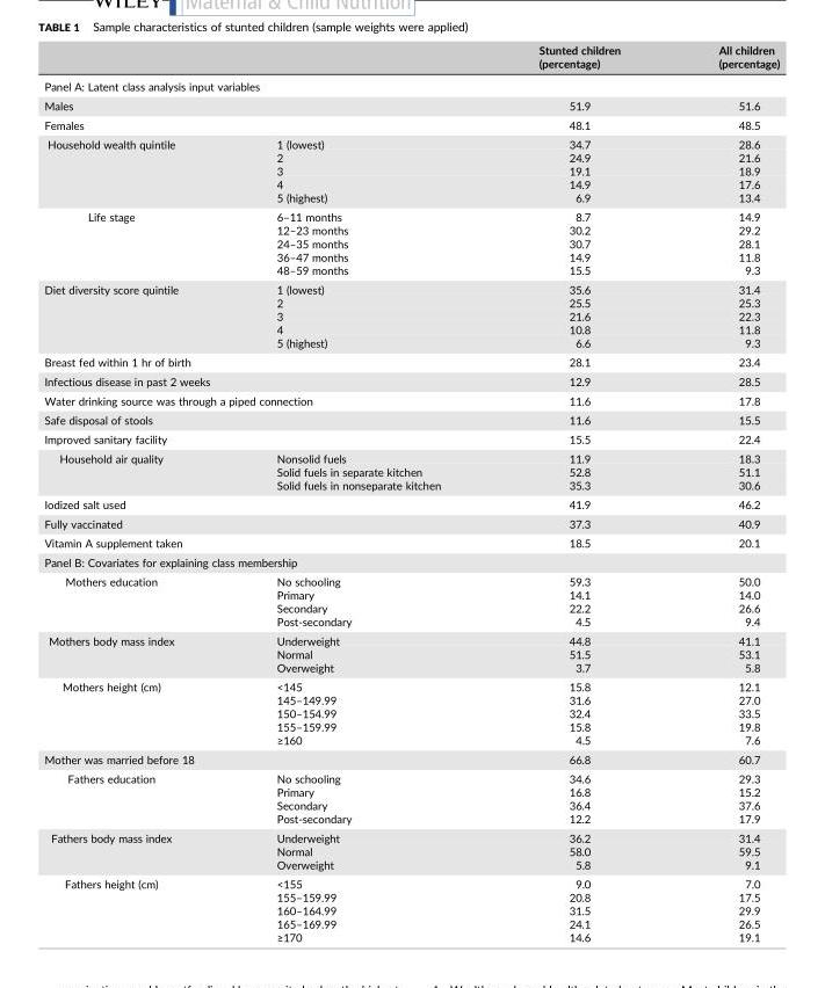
<table><thead><tr><td></td><td></td><td>Stunted children (percentage)</td><td>All children (percentage)</td></tr></thead><tbody><tr><td colspan="4">Panel A: Latent class analysis input variables</td></tr><tr><td colspan="2">Males</td><td>51.9</td><td>51.6</td></tr><tr><td colspan="2">Females</td><td>48.1</td><td>48.5</td></tr><tr><td rowspan="5">Household wealth quintile</td><td>1 (lowest)</td><td>34.7</td><td>28.6</td></tr><tr><td>2</td><td>24.9</td><td>21.6</td></tr><tr><td>3</td><td>19.1</td><td>18.9</td></tr><tr><td>4</td><td>14.9</td><td>17.6</td></tr><tr><td>5 (highest)</td><td>6.9</td><td>13.4</td></tr><tr><td rowspan="5">Life stage</td><td>6–11 months</td><td>8.7</td><td>14.9</td></tr><tr><td>12–23 months</td><td>30.2</td><td>29.2</td></tr><tr><td>24–35 months</td><td>30.7</td><td>28.1</td></tr><tr><td>36–47 months</td><td>14.9</td><td>11.8</td></tr><tr><td>48–59 months</td><td>15.5</td><td>9.3</td></tr><tr><td rowspan="5">Diet diversity score quintile</td><td>1 (lowest)</td><td>35.6</td><td>31.4</td></tr><tr><td>2</td><td>25.5</td><td>25.3</td></tr><tr><td>3</td><td>21.6</td><td>22.3</td></tr><tr><td>4</td><td>10.8</td><td>11.8</td></tr><tr><td>5 (highest)</td><td>6.6</td><td>9.3</td></tr><tr><td colspan="2">Breast fed within 1 hr of birth</td><td>28.1</td><td>23.4</td></tr><tr><td colspan="2">Infectious disease in past 2 weeks</td><td>12.9</td><td>28.5</td></tr><tr><td colspan="2">Water drinking source was through a piped connection</td><td>11.6</td><td>17.8</td></tr><tr><td colspan="2">Safe disposal of stools</td><td>11.6</td><td>15.5</td></tr><tr><td colspan="2">Improved sanitary facility</td><td>15.5</td><td>22.4</td></tr><tr><td rowspan="3">Household air quality</td><td>Nonsolid fuels</td><td>11.9</td><td>18.3</td></tr><tr><td>Solid fuels in separate kitchen</td><td>52.8</td><td>51.1</td></tr><tr><td>Solid fuels in nonseparate kitchen</td><td>35.3</td><td>30.6</td></tr><tr><td colspan="2">Iodized salt used</td><td>41.9</td><td>46.2</td></tr><tr><td colspan="2">Fully vaccinated</td><td>37.3</td><td>40.9</td></tr><tr><td colspan="2">Vitamin A supplement taken</td><td>18.5</td><td>20.1</td></tr><tr><td colspan="4">Panel B: Covariates for explaining class membership</td></tr><tr><td rowspan="4">Mothers education</td><td>No schooling</td><td>59.3</td><td>50.0</td></tr><tr><td>Primary</td><td>14.1</td><td>14.0</td></tr><tr><td>Secondary</td><td>22.2</td><td>26.6</td></tr><tr><td>Post‐secondary</td><td>4.5</td><td>9.4</td></tr><tr><td rowspan="3">Mothers body mass index</td><td>Underweight</td><td>44.8</td><td>41.1</td></tr><tr><td>Normal</td><td>51.5</td><td>53.1</td></tr><tr><td>Overweight</td><td>3.7</td><td>5.8</td></tr><tr><td rowspan="5">Mothers height (cm)</td><td>&lt;145</td><td>15.8</td><td>12.1</td></tr><tr><td>145–149.99</td><td>31.6</td><td>27.0</td></tr><tr><td>150–154.99</td><td>32.4</td><td>33.5</td></tr><tr><td>155–159.99</td><td>15.8</td><td>19.8</td></tr><tr><td>≥160</td><td>4.5</td><td>7.6</td></tr><tr><td colspan="2">Mother was married before 18</td><td>66.8</td><td>60.7</td></tr><tr><td rowspan="4">Fathers education</td><td>No schooling</td><td>34.6</td><td>29.3</td></tr><tr><td>Primary</td><td>16.8</td><td>15.2</td></tr><tr><td>Secondary</td><td>36.4</td><td>37.6</td></tr><tr><td>Post‐secondary</td><td>12.2</td><td>17.9</td></tr><tr><td rowspan="3">Fathers body mass index</td><td>Underweight</td><td>36.2</td><td>31.4</td></tr><tr><td>Normal</td><td>58.0</td><td>59.5</td></tr><tr><td>Overweight</td><td>5.8</td><td>9.1</td></tr><tr><td rowspan="5">Fathers height (cm)</td><td>&lt;155</td><td>9.0</td><td>7.0</td></tr><tr><td>155–159.99</td><td>20.8</td><td>17.5</td></tr><tr><td>160–164.99</td><td>31.5</td><td>29.9</td></tr><tr><td>165–169.99</td><td>24.1</td><td>26.5</td></tr><tr><td>≥170</td><td>14.6</td><td>19.1</td></tr></tbody></table>